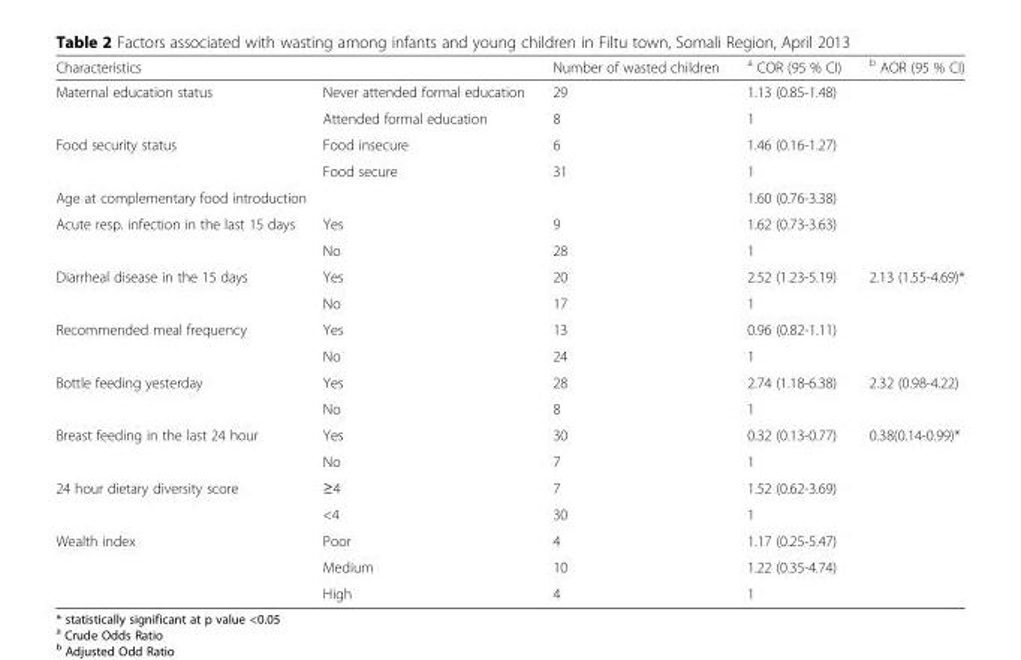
<table><thead><tr><td>Characteristics</td><td></td><td>Number of wasted children</td><td><sup>a</sup> COR (95 % CI)</td><td><sup>b</sup> AOR (95 % CI)</td></tr></thead><tbody><tr><td rowspan="2">Maternal education status</td><td>Never attended formal education</td><td>29</td><td>1.13 (0.85-1.48)</td><td></td></tr><tr><td>Attended formal education</td><td>8</td><td>1</td><td></td></tr><tr><td rowspan="2">Food security status</td><td>Food insecure</td><td>6</td><td>1.46 (0.16-1.27)</td><td></td></tr><tr><td>Food secure</td><td>31</td><td>1</td><td></td></tr><tr><td colspan="2">Age at complementary food introduction</td><td></td><td>1.60 (0.76-3.38)</td><td></td></tr><tr><td rowspan="2">Acute resp. infection in the last 15 days</td><td>Yes</td><td>9</td><td>1.62 (0.73-3.63)</td><td></td></tr><tr><td>No</td><td>28</td><td>1</td><td></td></tr><tr><td rowspan="2">Diarrheal disease in the 15 days</td><td>Yes</td><td>20</td><td>2.52 (1.23-5.19)</td><td>2.13 (1.55-4.69)*</td></tr><tr><td>No</td><td>17</td><td>1</td><td></td></tr><tr><td rowspan="2">Recommended meal frequency</td><td>Yes</td><td>13</td><td>0.96 (0.82-1.11)</td><td></td></tr><tr><td>No</td><td>24</td><td>1</td><td></td></tr><tr><td rowspan="2">Bottle feeding yesterday</td><td>Yes</td><td>28</td><td>2.74 (1.18-6.38)</td><td>2.32 (0.98-4.22)</td></tr><tr><td>No</td><td>8</td><td>1</td><td></td></tr><tr><td rowspan="2">Breast feeding in the last 24 hour</td><td>Yes</td><td>30</td><td>0.32 (0.13-0.77)</td><td>0.38(0.14-0.99)*</td></tr><tr><td>No</td><td>7</td><td>1</td><td></td></tr><tr><td rowspan="2">24 hour dietary diversity score</td><td>≥4</td><td>7</td><td>1.52 (0.62-3.69)</td><td></td></tr><tr><td>&lt;4</td><td>30</td><td>1</td><td></td></tr><tr><td rowspan="3">Wealth index</td><td>Poor</td><td>4</td><td>1.17 (0.25-5.47)</td><td></td></tr><tr><td>Medium</td><td>10</td><td>1.22 (0.35-4.74)</td><td></td></tr><tr><td>High</td><td>4</td><td>1</td><td></td></tr></tbody></table>